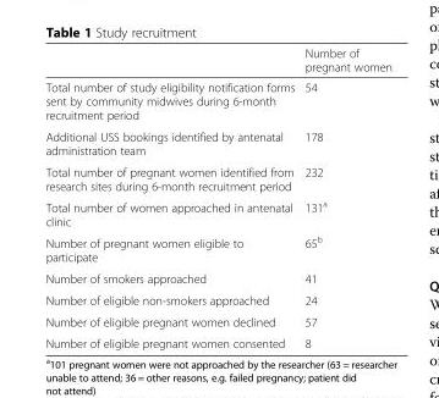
<table><thead><tr><td></td><td>Number of pregnant women</td></tr></thead><tbody><tr><td>Total number of study eligibility notification forms sent by community midwives during 6-month recruitment period</td><td>54</td></tr><tr><td>Additional USS bookings identified by antenatal administration team</td><td>178</td></tr><tr><td>Total number of pregnant women identified from research sites during 6-month recruitment period</td><td>232</td></tr><tr><td>Total number of women approached in antenatal clinic</td><td>131<sup>a</sup></td></tr><tr><td>Number of pregnant women eligible to participate</td><td>65<sup>b</sup></td></tr><tr><td>Number of smokers approached</td><td>41</td></tr><tr><td>Number of eligible non-smokers approached</td><td>24</td></tr><tr><td>Number of eligible pregnant women declined</td><td>57</td></tr><tr><td>Number of eligible pregnant women consented</td><td>8</td></tr></tbody></table>